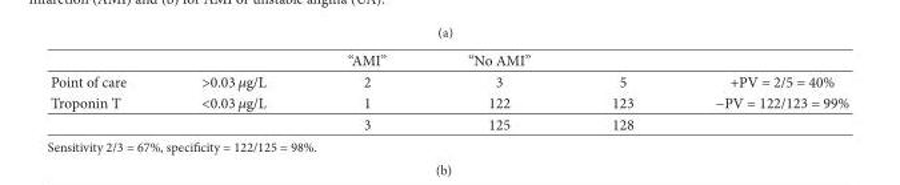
<table><thead><tr><td></td><td></td><td>“AMI”</td><td>“No AMI”</td><td></td><td></td></tr></thead><tbody><tr><td>Point of care</td><td>&gt;0.03 𝜇𝜇g/L</td><td>2</td><td>3</td><td>5</td><td>+PV = 2/5 = 40%</td></tr><tr><td rowspan="2">Troponin T</td><td>&lt;0.03 𝜇𝜇g/L</td><td>1</td><td>122</td><td>123</td><td>−PV = 122/123 = 99%</td></tr><tr><td></td><td>3</td><td>125</td><td>128</td><td></td></tr></tbody></table>